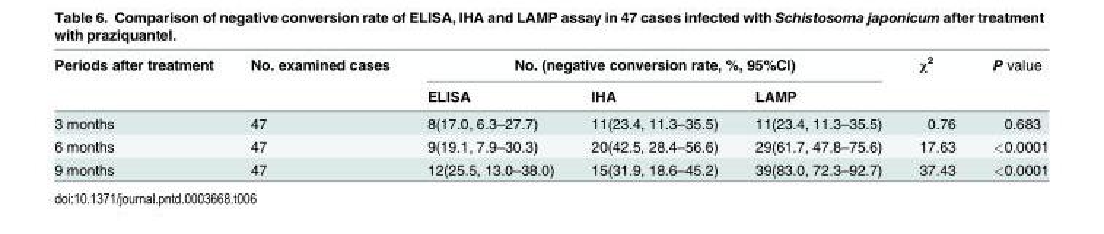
<table><thead><tr><td rowspan="2">Periods after treatment</td><td rowspan="2">No. examined cases</td><td colspan="3">No. (negative conversion rate, %, 95%CI)</td><td rowspan="2">χ<sup>2</sup></td><td rowspan="2">P value</td></tr><tr><td>ELISA</td><td>IHA</td><td>LAMP</td></tr></thead><tbody><tr><td>3 months</td><td>47</td><td>8(17.0, 6.3–27.7)</td><td>11(23.4, 11.3–35.5)</td><td>11(23.4, 11.3–35.5)</td><td>0.76</td><td>0.683</td></tr><tr><td>6 months</td><td>47</td><td>9(19.1, 7.9–30.3)</td><td>20(42.5, 28.4–56.6)</td><td>29(61.7, 47.8–75.6)</td><td>17.63</td><td>&lt;0.0001</td></tr><tr><td>9 months</td><td>47</td><td>12(25.5, 13.0–38.0)</td><td>15(31.9, 18.6–45.2)</td><td>39(83.0, 72.3–92.7)</td><td>37.43</td><td>&lt;0.0001</td></tr></tbody></table>